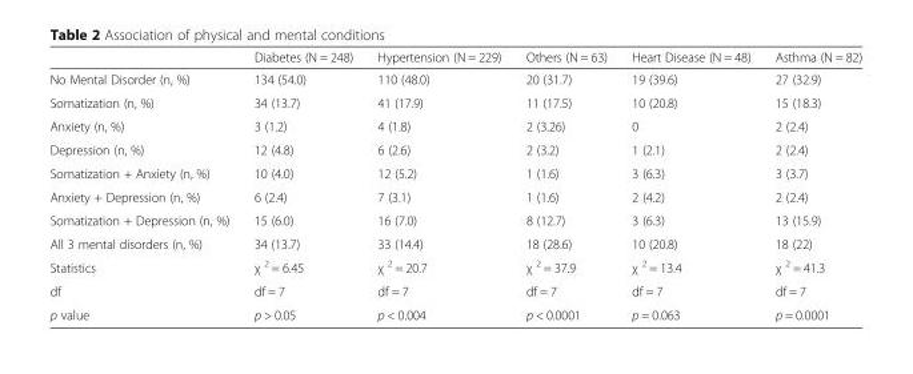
<table><thead><tr><td></td><td>Diabetes (N = 248)</td><td>Hypertension (N = 229)</td><td>Others (N = 63)</td><td>Heart Disease (N = 48)</td><td>Asthma (N = 82)</td></tr></thead><tbody><tr><td>No Mental Disorder (n, %)</td><td>134 (54.0)</td><td>110 (48.0)</td><td>20 (31.7)</td><td>19 (39.6)</td><td>27 (32.9)</td></tr><tr><td>Somatization (n, %)</td><td>34 (13.7)</td><td>41 (17.9)</td><td>11 (17.5)</td><td>10 (20.8)</td><td>15 (18.3)</td></tr><tr><td>Anxiety (n, %)</td><td>3 (1.2)</td><td>4 (1.8)</td><td>2 (3.26)</td><td>0</td><td>2 (2.4)</td></tr><tr><td>Depression (n, %)</td><td>12 (4.8)</td><td>6 (2.6)</td><td>2 (3.2)</td><td>1 (2.1)</td><td>2 (2.4)</td></tr><tr><td>Somatization + Anxiety (n, %)</td><td>10 (4.0)</td><td>12 (5.2)</td><td>1 (1.6)</td><td>3 (6.3)</td><td>3 (3.7)</td></tr><tr><td>Anxiety + Depression (n, %)</td><td>6 (2.4)</td><td>7 (3.1)</td><td>1 (1.6)</td><td>2 (4.2)</td><td>2 (2.4)</td></tr><tr><td>Somatization + Depression (n, %)</td><td>15 (6.0)</td><td>16 (7.0)</td><td>8 (12.7)</td><td>3 (6.3)</td><td>13 (15.9)</td></tr><tr><td>All 3 mental disorders (n, %)</td><td>34 (13.7)</td><td>33 (14.4)</td><td>18 (28.6)</td><td>10 (20.8)</td><td>18 (22)</td></tr><tr><td>Statistics</td><td>χ <sup>2</sup> = 6.45</td><td>χ <sup>2</sup> = 20.7</td><td>χ <sup>2</sup> = 37.9</td><td>χ <sup>2</sup> = 13.4</td><td>χ <sup>2</sup> = 41.3</td></tr><tr><td>df</td><td>df = 7</td><td>df = 7</td><td>df = 7</td><td>df = 7</td><td>df = 7</td></tr><tr><td>p value</td><td>p &gt; 0.05</td><td>p &lt; 0.004</td><td>p &lt; 0.0001</td><td>p = 0.063</td><td>p = 0.0001</td></tr></tbody></table>